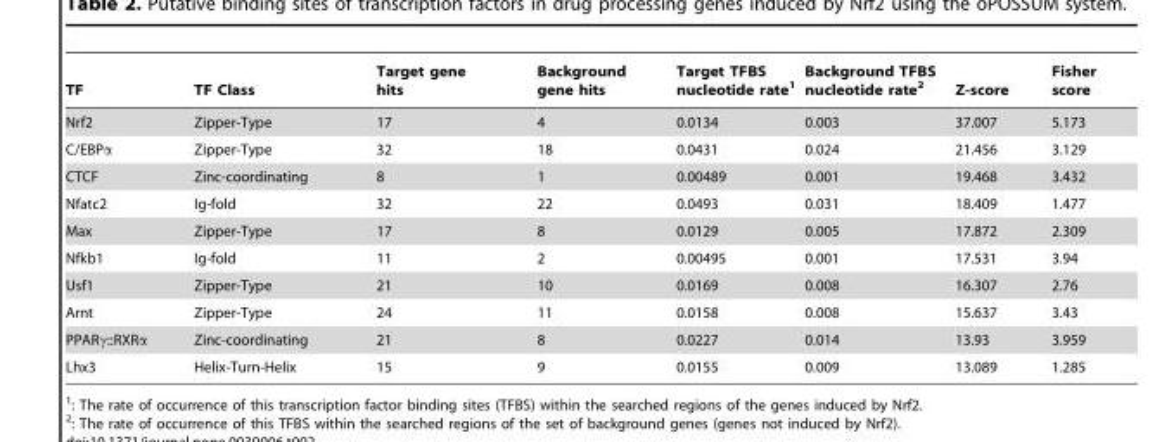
<table><thead><tr><td>TF</td><td>TF Class</td><td>Target gene hits</td><td>Background gene hits</td><td>Target TFBS nucleotide rate<sup>1</sup></td><td>Background TFBS nucleotide rate<sup>2</sup></td><td>Z-score</td><td>Fisher score</td></tr></thead><tbody><tr><td>Nrf2</td><td>Zipper-Type</td><td>17</td><td>4</td><td>0.0134</td><td>0.003</td><td>37.007</td><td>5.173</td></tr><tr><td>C/EBPα</td><td>Zipper-Type</td><td>32</td><td>18</td><td>0.0431</td><td>0.024</td><td>21.456</td><td>3.129</td></tr><tr><td>CTCF</td><td>Zinc-coordinating</td><td>8</td><td>1</td><td>0.00489</td><td>0.001</td><td>19.468</td><td>3.432</td></tr><tr><td>Nfatc2</td><td>Ig-fold</td><td>32</td><td>22</td><td>0.0493</td><td>0.031</td><td>18.409</td><td>1.477</td></tr><tr><td>Max</td><td>Zipper-Type</td><td>17</td><td>8</td><td>0.0129</td><td>0.005</td><td>17.872</td><td>2.309</td></tr><tr><td>Nfkb1</td><td>Ig-fold</td><td>11</td><td>2</td><td>0.00495</td><td>0.001</td><td>17.531</td><td>3.94</td></tr><tr><td>Usf1</td><td>Zipper-Type</td><td>21</td><td>10</td><td>0.0169</td><td>0.008</td><td>16.307</td><td>2.76</td></tr><tr><td>Arnt</td><td>Zipper-Type</td><td>24</td><td>11</td><td>0.0158</td><td>0.008</td><td>15.637</td><td>3.43</td></tr><tr><td>PPARγ::RXRα</td><td>Zinc-coordinating</td><td>21</td><td>8</td><td>0.0227</td><td>0.014</td><td>13.93</td><td>3.959</td></tr><tr><td>Lhx3</td><td>Helix-Turn-Helix</td><td>15</td><td>9</td><td>0.0155</td><td>0.009</td><td>13.089</td><td>1.285</td></tr></tbody></table>